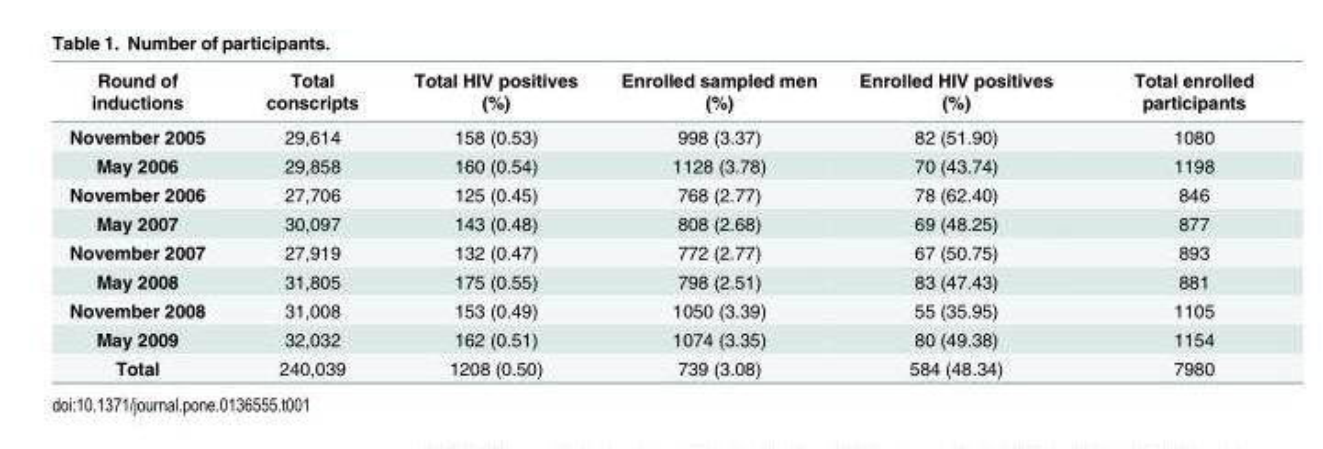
<table><thead><tr><td>Round of inductions</td><td>Total conscripts</td><td>Total HIV positives (%)</td><td>Enrolled sampled men (%)</td><td>Enrolled HIV positives (%)</td><td>Total enrolled participants</td></tr></thead><tbody><tr><td>November 2005</td><td>29,614</td><td>158 (0.53)</td><td>998 (3.37)</td><td>82 (51.90)</td><td>1080</td></tr><tr><td>May 2006</td><td>29,858</td><td>160 (0.54)</td><td>1128 (3.78)</td><td>70 (43.74)</td><td>1198</td></tr><tr><td>November 2006</td><td>27,706</td><td>125 (0.45)</td><td>768 (2.77)</td><td>78 (62.40)</td><td>846</td></tr><tr><td>May 2007</td><td>30,097</td><td>143 (0.48)</td><td>808 (2.68)</td><td>69 (48.25)</td><td>877</td></tr><tr><td>November 2007</td><td>27,919</td><td>132 (0.47)</td><td>772 (2.77)</td><td>67 (50.75)</td><td>893</td></tr><tr><td>May 2008</td><td>31,805</td><td>175 (0.55)</td><td>798 (2.51)</td><td>83 (47.43)</td><td>881</td></tr><tr><td>November 2008</td><td>31,008</td><td>153 (0.49)</td><td>1050 (3.39)</td><td>55 (35.95)</td><td>1105</td></tr><tr><td>May 2009</td><td>32,032</td><td>162 (0.51)</td><td>1074 (3.35)</td><td>80 (49.38)</td><td>1154</td></tr><tr><td>Total</td><td>240,039</td><td>1208 (0.50)</td><td>739 (3.08)</td><td>584 (48.34)</td><td>7980</td></tr></tbody></table>